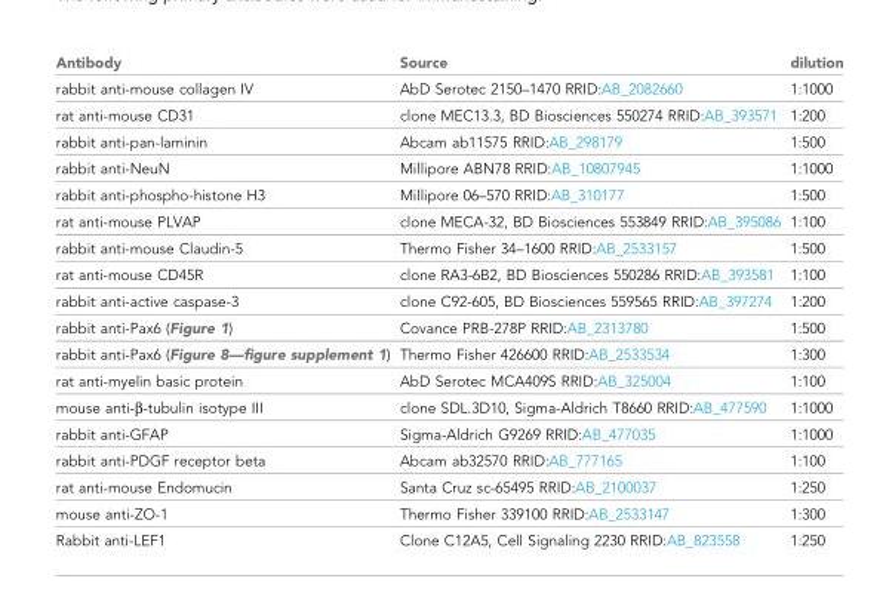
<table><thead><tr><td>Antibody</td><td>Source</td><td>dilution</td></tr></thead><tbody><tr><td>rabbit anti-mouse collagen IV</td><td>AbD Serotec 2150–1470 RRID:AB_2082660</td><td>1:1000</td></tr><tr><td>rat anti-mouse CD31</td><td>clone MEC13.3, BD Biosciences 550274 RRID:AB_393571</td><td>1:200</td></tr><tr><td>rabbit anti-pan-laminin</td><td>Abcam ab11575 RRID:AB_298179</td><td>1:500</td></tr><tr><td>rabbit anti-NeuN</td><td>Millipore ABN78 RRID:AB_10807945</td><td>1:1000</td></tr><tr><td>rabbit anti-phospho-histone H3</td><td>Millipore 06–570 RRID:AB_310177</td><td>1:500</td></tr><tr><td>rat anti-mouse PLVAP</td><td>clone MECA-32, BD Biosciences 553849 RRID:AB_395086</td><td>1:100</td></tr><tr><td>rabbit anti-mouse Claudin-5</td><td>Thermo Fisher 34–1600 RRID:AB_2533157</td><td>1:500</td></tr><tr><td>rat anti-mouse CD45R</td><td>clone RA3-6B2, BD Biosciences 550286 RRID:AB_393581</td><td>1:100</td></tr><tr><td>rabbit anti-active caspase-3</td><td>clone C92-605, BD Biosciences 559565 RRID:AB_397274</td><td>1:200</td></tr><tr><td>rabbit anti-Pax6 (Figure 1)</td><td>Covance PRB-278P RRID:AB_2313780</td><td>1:500</td></tr><tr><td>rabbit anti-Pax6 (Figure 8—figure supplement 1)</td><td>Thermo Fisher 426600 RRID:AB_2533534</td><td>1:300</td></tr><tr><td>rat anti-myelin basic protein</td><td>AbD Serotec MCA409S RRID:AB_325004</td><td>1:100</td></tr><tr><td>mouse anti-β-tubulin isotype III</td><td>clone SDL.3D10, Sigma-Aldrich T8660 RRID:AB_477590</td><td>1:1000</td></tr><tr><td>rabbit anti-GFAP</td><td>Sigma-Aldrich G9269 RRID:AB_477035</td><td>1:1000</td></tr><tr><td>rabbit anti-PDGF receptor beta</td><td>Abcam ab32570 RRID:AB_777165</td><td>1:100</td></tr><tr><td>rat anti-mouse Endomucin</td><td>Santa Cruz sc-65495 RRID:AB_2100037</td><td>1:250</td></tr><tr><td>mouse anti-ZO-1</td><td>Thermo Fisher 339100 RRID:AB_2533147</td><td>1:300</td></tr><tr><td>Rabbit anti-LEF1</td><td>Clone C12A5, Cell Signaling 2230 RRID:AB_823558</td><td>1:250</td></tr></tbody></table>